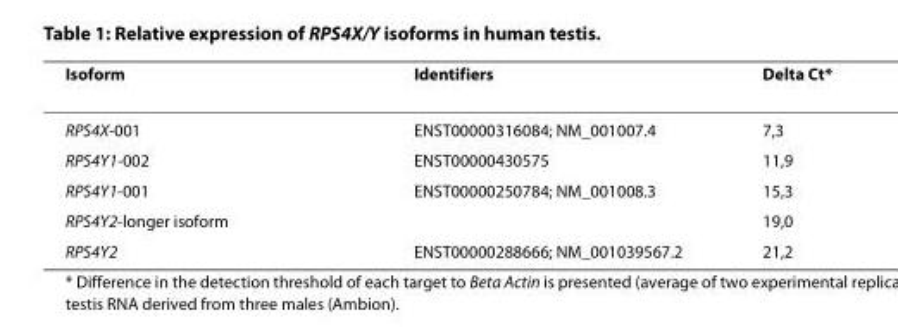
<table><thead><tr><td>Isoform</td><td>Identifiers</td><td>Delta Ct*</td></tr></thead><tbody><tr><td>RPS4X-001</td><td>ENST00000316084; NM_001007.4</td><td>7,3</td></tr><tr><td>RPS4Y1-002</td><td>ENST00000430575</td><td>11,9</td></tr><tr><td>RPS4Y1-001</td><td>ENST00000250784; NM_001008.3</td><td>15,3</td></tr><tr><td>RPS4Y2-longer isoform</td><td></td><td>19,0</td></tr><tr><td>RPS4Y2</td><td>ENST00000288666; NM_001039567.2</td><td>21,2</td></tr></tbody></table>